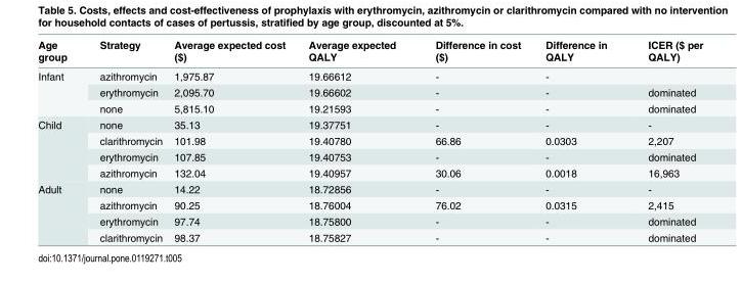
<table><thead><tr><td>Age group</td><td>Strategy</td><td>Average expected cost ($)</td><td>Average expected QALY</td><td>Difference in cost ($)</td><td>Difference in QALY</td><td>ICER ($ per QALY)</td></tr></thead><tbody><tr><td rowspan="3">Infant</td><td>azithromycin</td><td>1,975.87</td><td>19.66612</td><td>-</td><td>-</td><td></td></tr><tr><td>erythromycin</td><td>2,095.70</td><td>19.66602</td><td>-</td><td>-</td><td>dominated</td></tr><tr><td>none</td><td>5,815.10</td><td>19.21593</td><td>-</td><td>-</td><td>dominated</td></tr><tr><td rowspan="4">Child</td><td>none</td><td>35.13</td><td>19.37751</td><td>-</td><td>-</td><td>-</td></tr><tr><td>clarithromycin</td><td>101.98</td><td>19.40780</td><td>66.86</td><td>0.0303</td><td>2,207</td></tr><tr><td>erythromycin</td><td>107.85</td><td>19.40753</td><td>-</td><td>-</td><td>dominated</td></tr><tr><td>azithromycin</td><td>132.04</td><td>19.40957</td><td>30.06</td><td>0.0018</td><td>16,963</td></tr><tr><td rowspan="4">Adult</td><td>none</td><td>14.22</td><td>18.72856</td><td>-</td><td>-</td><td>-</td></tr><tr><td>azithromycin</td><td>90.25</td><td>18.76004</td><td>76.02</td><td>0.0315</td><td>2,415</td></tr><tr><td>erythromycin</td><td>97.74</td><td>18.75800</td><td>-</td><td>-</td><td>dominated</td></tr><tr><td>clarithromycin</td><td>98.37</td><td>18.75827</td><td>-</td><td>-</td><td>dominated</td></tr></tbody></table>